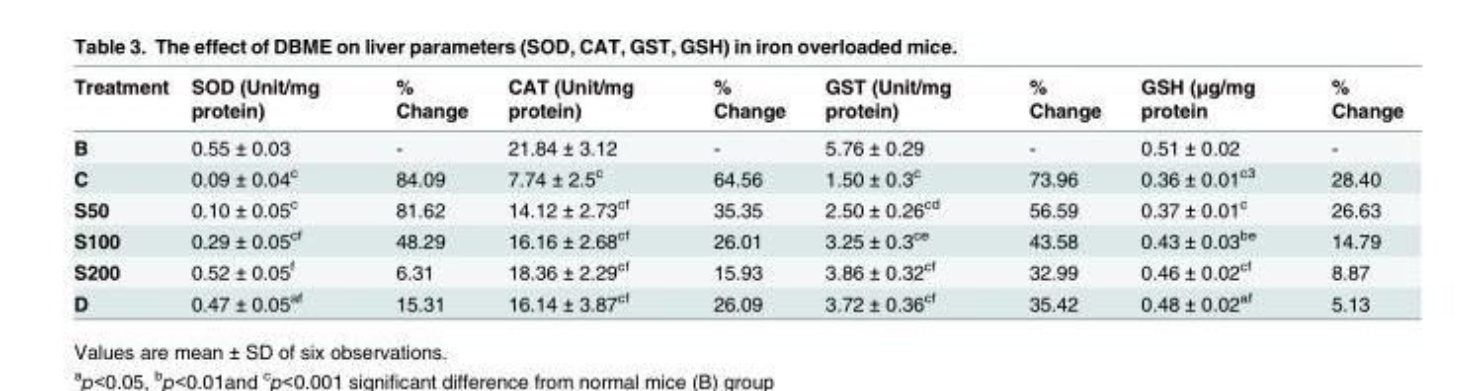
<table><thead><tr><td>Treatment</td><td>SOD (Unit/mg protein)</td><td>% Change</td><td>CAT (Unit/mg protein)</td><td>% Change</td><td>GST (Unit/mg protein)</td><td>% Change</td><td>GSH (μg/mg protein</td><td>% Change</td></tr></thead><tbody><tr><td>B</td><td>0.55 ± 0.03</td><td>-</td><td>21.84 ± 3.12</td><td>-</td><td>5.76 ± 0.29</td><td>-</td><td>0.51 ± 0.02</td><td>-</td></tr><tr><td>C</td><td>0.09 ± 0.04<sup>c</sup></td><td>84.09</td><td>7.74 ± 2.5<sup>c</sup></td><td>64.56</td><td>1.50 ± 0.3<sup>c</sup></td><td>73.96</td><td>0.36 ± 0.01<sup>c3</sup></td><td>28.40</td></tr><tr><td>S50</td><td>0.10 ± 0.05<sup>c</sup></td><td>81.62</td><td>14.12 ± 2.73<sup>cf</sup></td><td>35.35</td><td>2.50 ± 0.26<sup>cd</sup></td><td>56.59</td><td>0.37 ± 0.01<sup>c</sup></td><td>26.63</td></tr><tr><td>S100</td><td>0.29 ± 0.05<sup>cf</sup></td><td>48.29</td><td>16.16 ± 2.68<sup>cf</sup></td><td>26.01</td><td>3.25 ± 0.3<sup>ce</sup></td><td>43.58</td><td>0.43 ± 0.03<sup>be</sup></td><td>14.79</td></tr><tr><td>S200</td><td>0.52 ± 0.05<sup>f</sup></td><td>6.31</td><td>18.36 ± 2.29<sup>cf</sup></td><td>15.93</td><td>3.86 ± 0.32<sup>cf</sup></td><td>32.99</td><td>0.46 ± 0.02<sup>cf</sup></td><td>8.87</td></tr><tr><td>D</td><td>0.47 ± 0.05<sup>af</sup></td><td>15.31</td><td>16.14 ± 3.87<sup>cf</sup></td><td>26.09</td><td>3.72 ± 0.36<sup>cf</sup></td><td>35.42</td><td>0.48 ± 0.02<sup>af</sup></td><td>5.13</td></tr></tbody></table>